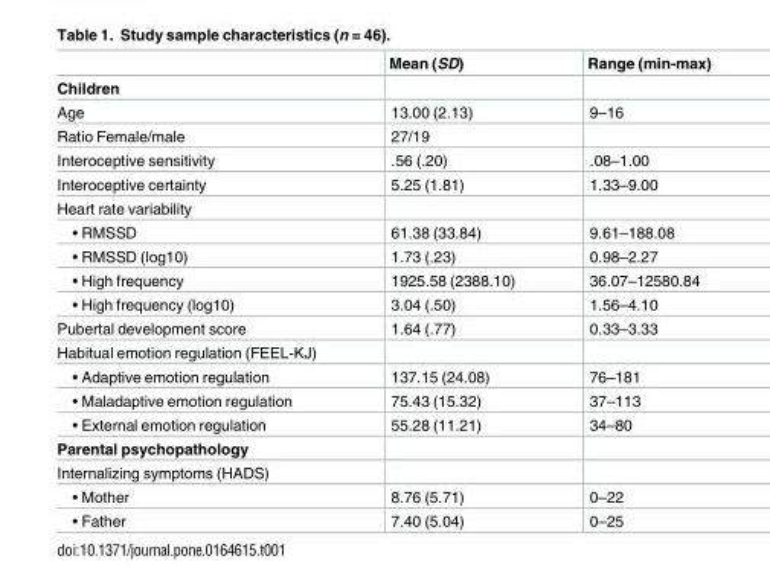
<table><thead><tr><td></td><td>Mean (SD)</td><td>Range (min-max)</td></tr></thead><tbody><tr><td colspan="3">Children</td></tr><tr><td>Age</td><td>13.00 (2.13)</td><td>9–16</td></tr><tr><td>Ratio Female/male</td><td>27/19</td><td></td></tr><tr><td>Interoceptive sensitivity</td><td>.56 (.20)</td><td>.08–1.00</td></tr><tr><td>Interoceptive certainty</td><td>5.25 (1.81)</td><td>1.33–9.00</td></tr><tr><td colspan="3">Heart rate variability</td></tr><tr><td>• RMSSD</td><td>61.38 (33.84)</td><td>9.61–188.08</td></tr><tr><td>• RMSSD (log10)</td><td>1.73 (.23)</td><td>0.98–2.27</td></tr><tr><td>• High frequency</td><td>1925.58 (2388.10)</td><td>36.07–12580.84</td></tr><tr><td>• High frequency (log10)</td><td>3.04 (.50)</td><td>1.56–4.10</td></tr><tr><td>Pubertal development score</td><td>1.64 (.77)</td><td>0.33–3.33</td></tr><tr><td colspan="3">Habitual emotion regulation (FEEL-KJ)</td></tr><tr><td>• Adaptive emotion regulation</td><td>137.15 (24.08)</td><td>76–181</td></tr><tr><td>• Maladaptive emotion regulation</td><td>75.43 (15.32)</td><td>37–113</td></tr><tr><td>• External emotion regulation</td><td>55.28 (11.21)</td><td>34–80</td></tr><tr><td colspan="3">Parental psychopathology</td></tr><tr><td colspan="3">Internalizing symptoms (HADS)</td></tr><tr><td>• Mother</td><td>8.76 (5.71)</td><td>0–22</td></tr><tr><td>• Father</td><td>7.40 (5.04)</td><td>0–25</td></tr></tbody></table>